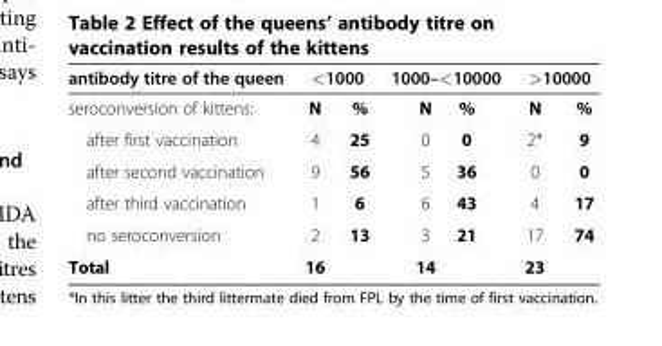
<table><thead><tr><td rowspan="2">antibody titre of the queen seroconversion of kittens:</td><td colspan="2">&lt;1000</td><td colspan="2">1000–&lt;10000</td><td colspan="2">&gt;10000</td></tr><tr><td>N</td><td>%</td><td>N</td><td>%</td><td>N</td><td>%</td></tr></thead><tbody><tr><td>after first vaccination</td><td>4</td><td>25</td><td>0</td><td>0</td><td>2*</td><td>9</td></tr><tr><td>after second vaccination</td><td>9</td><td>56</td><td>5</td><td>36</td><td>0</td><td>0</td></tr><tr><td>after third vaccination</td><td>1</td><td>6</td><td>6</td><td>43</td><td>4</td><td>17</td></tr><tr><td>no seroconversion</td><td>2</td><td>13</td><td>3</td><td>21</td><td>17</td><td>74</td></tr><tr><td>Total</td><td>16</td><td></td><td>14</td><td></td><td>23</td><td></td></tr></tbody></table>